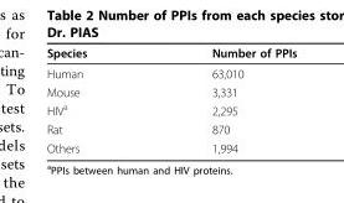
<table><thead><tr><td>Species</td><td>Number of PPIs</td></tr></thead><tbody><tr><td>Human</td><td>63,010</td></tr><tr><td>Mouse</td><td>3,331</td></tr><tr><td>HIV<sup>a</sup></td><td>2,295</td></tr><tr><td>Rat</td><td>870</td></tr><tr><td>Others</td><td>1,994</td></tr></tbody></table>